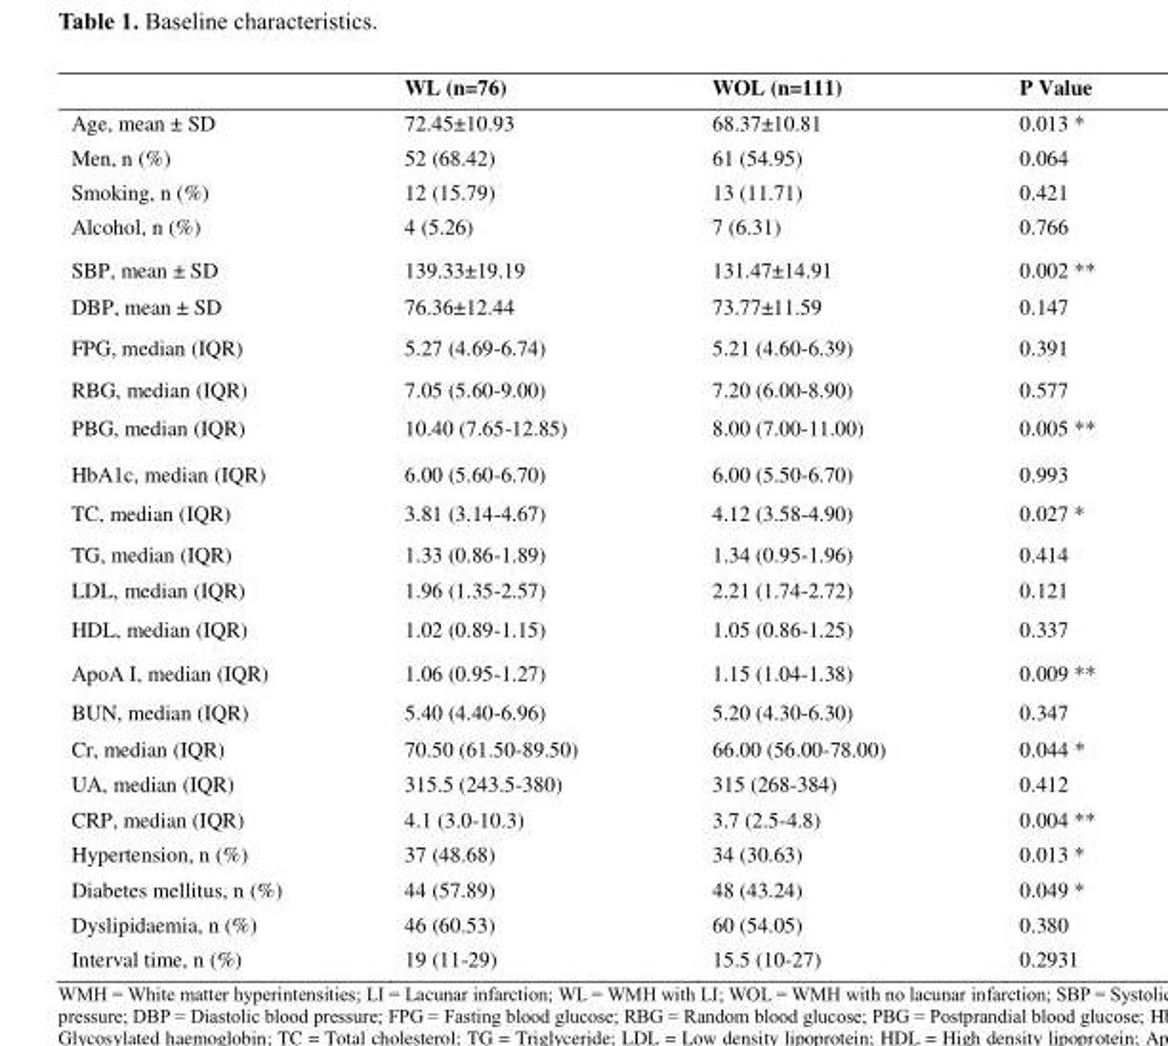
<table><thead><tr><td></td><td>WL (n=76)</td><td>WOL (n=111)</td><td>P Value</td></tr></thead><tbody><tr><td>Age, mean ± SD</td><td>72.45±10.93</td><td>68.37±10.81</td><td>0.013 *</td></tr><tr><td>Men, n (%)</td><td>52 (68.42)</td><td>61 (54.95)</td><td>0.064</td></tr><tr><td>Smoking, n (%)</td><td>12 (15.79)</td><td>13 (11.71)</td><td>0.421</td></tr><tr><td>Alcohol, n (%)</td><td>4 (5.26)</td><td>7 (6.31)</td><td>0.766</td></tr><tr><td>SBP, mean ± SD</td><td>139.33±19.19</td><td>131.47±14.91</td><td>0.002 **</td></tr><tr><td>DBP, mean ± SD</td><td>76.36±12.44</td><td>73.77±11.59</td><td>0.147</td></tr><tr><td>FPG, median (IQR)</td><td>5.27 (4.69-6.74)</td><td>5.21 (4.60-6.39)</td><td>0.391</td></tr><tr><td>RBG, median (IQR)</td><td>7.05 (5.60-9.00)</td><td>7.20 (6.00-8.90)</td><td>0.577</td></tr><tr><td>PBG, median (IQR)</td><td>10.40 (7.65-12.85)</td><td>8.00 (7.00-11.00)</td><td>0.005 **</td></tr><tr><td>HbA1c, median (IQR)</td><td>6.00 (5.60-6.70)</td><td>6.00 (5.50-6.70)</td><td>0.993</td></tr><tr><td>TC, median (IQR)</td><td>3.81 (3.14-4.67)</td><td>4.12 (3.58-4.90)</td><td>0.027 *</td></tr><tr><td>TG, median (IQR)</td><td>1.33 (0.86-1.89)</td><td>1.34 (0.95-1.96)</td><td>0.414</td></tr><tr><td>LDL, median (IQR)</td><td>1.96 (1.35-2.57)</td><td>2.21 (1.74-2.72)</td><td>0.121</td></tr><tr><td>HDL, median (IQR)</td><td>1.02 (0.89-1.15)</td><td>1.05 (0.86-1.25)</td><td>0.337</td></tr><tr><td>ApoA I, median (IQR)</td><td>1.06 (0.95-1.27)</td><td>1.15 (1.04-1.38)</td><td>0.009 **</td></tr><tr><td>BUN, median (IQR)</td><td>5.40 (4.40-6.96)</td><td>5.20 (4.30-6.30)</td><td>0.347</td></tr><tr><td>Cr, median (IQR)</td><td>70.50 (61.50-89.50)</td><td>66.00 (56.00-78.00)</td><td>0.044 *</td></tr><tr><td>UA, median (IQR)</td><td>315.5 (243.5-380)</td><td>315 (268-384)</td><td>0.412</td></tr><tr><td>CRP, median (IQR)</td><td>4.1 (3.0-10.3)</td><td>3.7 (2.5-4.8)</td><td>0.004 **</td></tr><tr><td>Hypertension, n (%)</td><td>37 (48.68)</td><td>34 (30.63)</td><td>0.013 *</td></tr><tr><td>Diabetes mellitus, n (%)</td><td>44 (57.89)</td><td>48 (43.24)</td><td>0.049 *</td></tr><tr><td>Dyslipidaemia, n (%)</td><td>46 (60.53)</td><td>60 (54.05)</td><td>0.380</td></tr><tr><td>Interval time, n (%)</td><td>19 (11-29)</td><td>15.5 (10-27)</td><td>0.2931</td></tr></tbody></table>